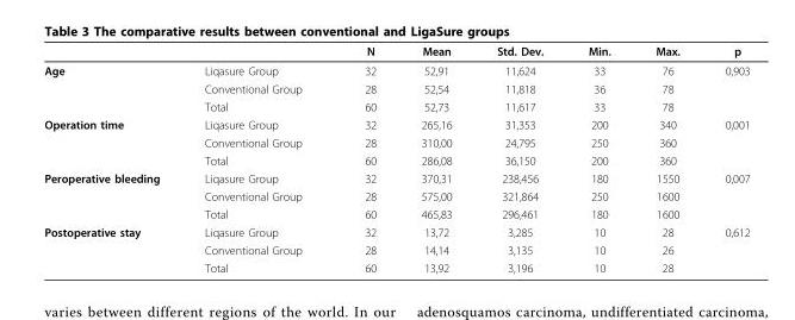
<table><thead><tr><td></td><td></td><td>N</td><td>Mean</td><td>Std. Dev.</td><td>Min.</td><td>Max.</td><td>p</td></tr></thead><tbody><tr><td rowspan="3">Age</td><td>Liqasure Group</td><td>32</td><td>52,91</td><td>11,624</td><td>33</td><td>76</td><td>0,903</td></tr><tr><td>Conventional Group</td><td>28</td><td>52,54</td><td>11,818</td><td>36</td><td>78</td><td></td></tr><tr><td>Total</td><td>60</td><td>52,73</td><td>11,617</td><td>33</td><td>78</td><td></td></tr><tr><td rowspan="3">Operation time</td><td>Liqasure Group</td><td>32</td><td>265,16</td><td>31,353</td><td>200</td><td>340</td><td>0,001</td></tr><tr><td>Conventional Group</td><td>28</td><td>310,00</td><td>24,795</td><td>250</td><td>360</td><td></td></tr><tr><td>Total</td><td>60</td><td>286,08</td><td>36,150</td><td>200</td><td>360</td><td></td></tr><tr><td rowspan="3">Peroperative bleeding</td><td>Liqasure Group</td><td>32</td><td>370,31</td><td>238,456</td><td>180</td><td>1550</td><td>0,007</td></tr><tr><td>Conventional Group</td><td>28</td><td>575,00</td><td>321,864</td><td>250</td><td>1600</td><td></td></tr><tr><td>Total</td><td>60</td><td>465,83</td><td>296,461</td><td>180</td><td>1600</td><td></td></tr><tr><td rowspan="3">Postoperative stay</td><td>Liqasure Group</td><td>32</td><td>13,72</td><td>3,285</td><td>10</td><td>28</td><td>0,612</td></tr><tr><td>Conventional Group</td><td>28</td><td>14,14</td><td>3,135</td><td>10</td><td>26</td><td></td></tr><tr><td>Total</td><td>60</td><td>13,92</td><td>3,196</td><td>10</td><td>28</td><td></td></tr></tbody></table>